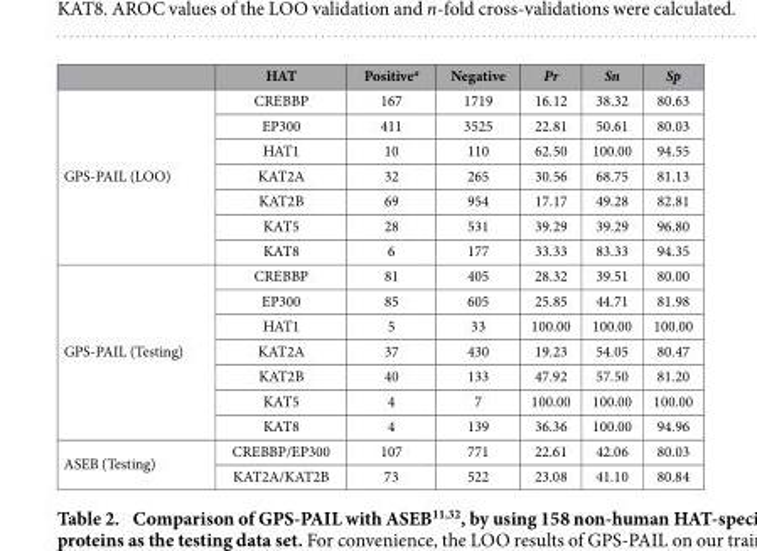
<table><thead><tr><td></td><td>HAT</td><td>Positive<sup>a</sup></td><td>Negative</td><td>Pr</td><td>Sn</td><td>Sp</td></tr></thead><tbody><tr><td rowspan="7">GPS-PAIL (LOO)</td><td>CREBBP</td><td>167</td><td>1719</td><td>16.12</td><td>38.32</td><td>80.63</td></tr><tr><td>EP300</td><td>411</td><td>3525</td><td>22.81</td><td>50.61</td><td>80.03</td></tr><tr><td>HAT1</td><td>10</td><td>110</td><td>62.50</td><td>100.00</td><td>94.55</td></tr><tr><td>KAT2A</td><td>32</td><td>265</td><td>30.56</td><td>68.75</td><td>81.13</td></tr><tr><td>KAT2B</td><td>69</td><td>954</td><td>17.17</td><td>49.28</td><td>82.81</td></tr><tr><td>KAT5</td><td>28</td><td>531</td><td>39.29</td><td>39.29</td><td>96.80</td></tr><tr><td>KAT8</td><td>6</td><td>177</td><td>33.33</td><td>83.33</td><td>94.35</td></tr><tr><td rowspan="7">GPS-PAIL (Testing)</td><td>CREBBP</td><td>81</td><td>405</td><td>28.32</td><td>39.51</td><td>80.00</td></tr><tr><td>EP300</td><td>85</td><td>605</td><td>25.85</td><td>44.71</td><td>81.98</td></tr><tr><td>HAT1</td><td>5</td><td>33</td><td>100.00</td><td>100.00</td><td>100.00</td></tr><tr><td>KAT2A</td><td>37</td><td>430</td><td>19.23</td><td>54.05</td><td>80.47</td></tr><tr><td>KAT2B</td><td>40</td><td>133</td><td>47.92</td><td>57.50</td><td>81.20</td></tr><tr><td>KAT5</td><td>4</td><td>7</td><td>100.00</td><td>100.00</td><td>100.00</td></tr><tr><td>KAT8</td><td>4</td><td>139</td><td>36.36</td><td>100.00</td><td>94.96</td></tr><tr><td rowspan="2">ASEB (Testing)</td><td>CREBBP/EP300</td><td>107</td><td>771</td><td>22.61</td><td>42.06</td><td>80.03</td></tr><tr><td>KAT2A/KAT2B</td><td>73</td><td>522</td><td>23.08</td><td>41.10</td><td>80.84</td></tr></tbody></table>